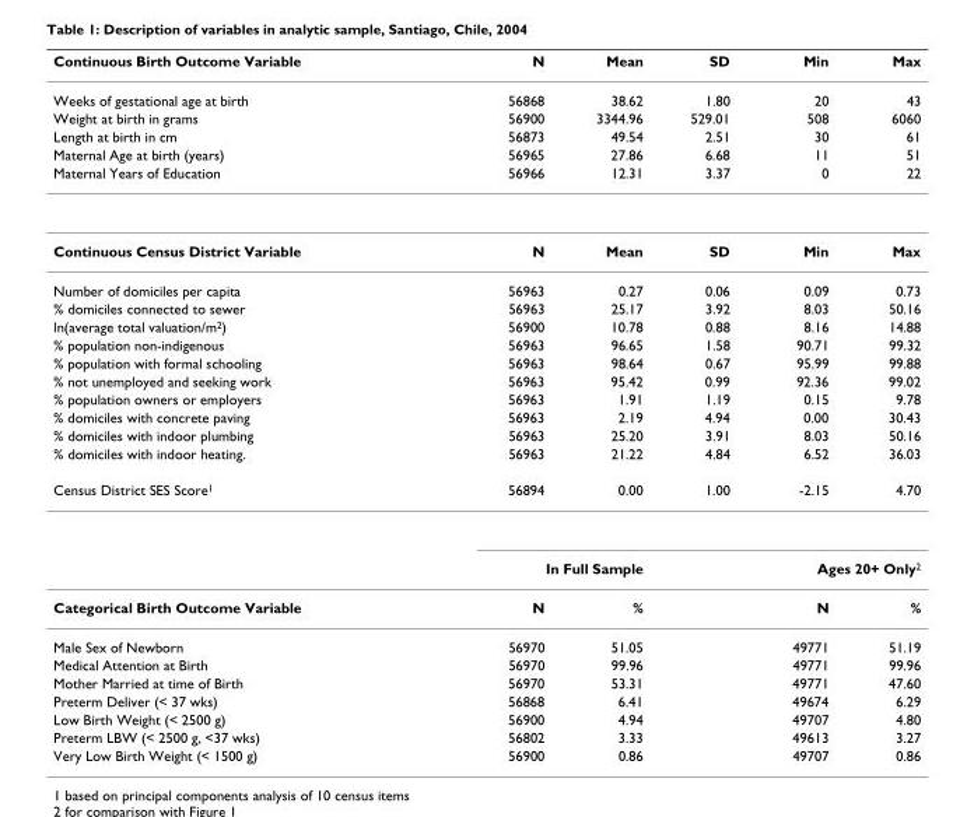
<table><thead><tr><td>Continuous Birth Outcome Variable</td><td>N</td><td>Mean</td><td>SD</td><td>Min</td><td>Max</td></tr></thead><tbody><tr><td>Weeks of gestational age at birth</td><td>56868</td><td>38.62</td><td>1.80</td><td>20</td><td>43</td></tr><tr><td>Weight at birth in grams</td><td>56900</td><td>3344.96</td><td>529.01</td><td>508</td><td>6060</td></tr><tr><td>Length at birth in cm</td><td>56873</td><td>49.54</td><td>2.51</td><td>30</td><td>61</td></tr><tr><td>Maternal Age at birth (years)</td><td>56965</td><td>27.86</td><td>6.68</td><td>11</td><td>51</td></tr><tr><td>Maternal Years of Education</td><td>56966</td><td>12.31</td><td>3.37</td><td>0</td><td>22</td></tr><tr><td>Continuous Census District Variable</td><td>N</td><td>Mean</td><td>SD</td><td>Min</td><td>Max</td></tr><tr><td>Number of domiciles per capita</td><td>56963</td><td>0.27</td><td>0.06</td><td>0.09</td><td>0.73</td></tr><tr><td>% domiciles connected to sewer</td><td>56963</td><td>25.17</td><td>3.92</td><td>8.03</td><td>50.16</td></tr><tr><td>ln(average total valuation/m<sup>2</sup>)</td><td>56900</td><td>10.78</td><td>0.88</td><td>8.16</td><td>14.88</td></tr><tr><td>% population non-indigenous</td><td>56963</td><td>96.65</td><td>1.58</td><td>90.71</td><td>99.32</td></tr><tr><td>% population with formal schooling</td><td>56963</td><td>98.64</td><td>0.67</td><td>95.99</td><td>99.88</td></tr><tr><td>% not unemployed and seeking work</td><td>56963</td><td>95.42</td><td>0.99</td><td>92.36</td><td>99.02</td></tr><tr><td>% population owners or employers</td><td>56963</td><td>1.91</td><td>1.19</td><td>0.15</td><td>9.78</td></tr><tr><td>% domiciles with concrete paving</td><td>56963</td><td>2.19</td><td>4.94</td><td>0.00</td><td>30.43</td></tr><tr><td>% domiciles with indoor plumbing</td><td>56963</td><td>25.20</td><td>3.91</td><td>8.03</td><td>50.16</td></tr><tr><td>% domiciles with indoor heating.</td><td>56963</td><td>21.22</td><td>4.84</td><td>6.52</td><td>36.03</td></tr><tr><td rowspan="2">Census District SES Score<sup>1</sup></td><td>56894</td><td>0.00</td><td>1.00</td><td>-2.15</td><td>4.70</td></tr><tr><td colspan="2">In Full Sample</td><td></td><td colspan="2">Ages 20+ Only<sup>2</sup></td></tr><tr><td>Categorical Birth Outcome Variable</td><td>N</td><td>%</td><td></td><td>N</td><td>%</td></tr><tr><td>Male Sex of Newborn</td><td>56970</td><td>51.05</td><td></td><td>49771</td><td>51.19</td></tr><tr><td>Medical Attention at Birth</td><td>56970</td><td>99.96</td><td></td><td>49771</td><td>99.96</td></tr><tr><td>Mother Married at time of Birth</td><td>56970</td><td>53.31</td><td></td><td>49771</td><td>47.60</td></tr><tr><td>Preterm Deliver (&lt; 37 wks)</td><td>56868</td><td>6.41</td><td></td><td>49674</td><td>6.29</td></tr><tr><td>Low Birth Weight (&lt; 2500 g)</td><td>56900</td><td>4.94</td><td></td><td>49707</td><td>4.80</td></tr><tr><td>Preterm LBW (&lt; 2500 g, &lt;37 wks)</td><td>56802</td><td>3.33</td><td></td><td>49613</td><td>3.27</td></tr><tr><td>Very Low Birth Weight (&lt; 1500 g)</td><td>56900</td><td>0.86</td><td></td><td>49707</td><td>0.86</td></tr></tbody></table>